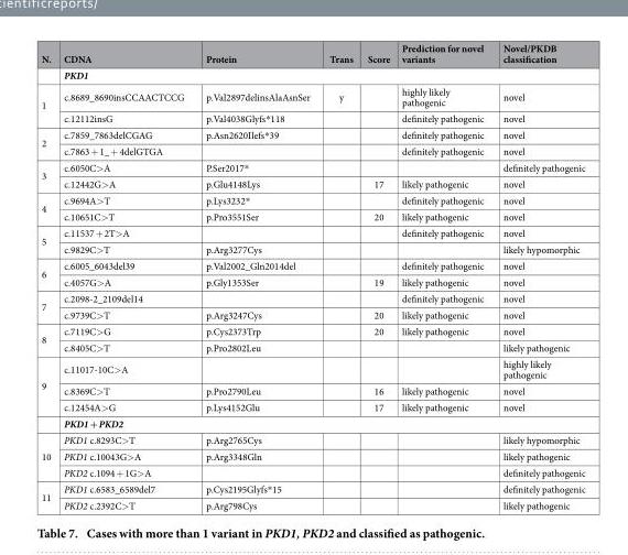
<table><thead><tr><td>N.</td><td>CDNA</td><td>Protein</td><td>Trans</td><td>Score</td><td>Prediction for novel variants</td><td>Novel/PKDB classification</td></tr></thead><tbody><tr><td></td><td colspan="6">PKD1</td></tr><tr><td rowspan="2">1</td><td>c.8689_8690insCCAACTCCG</td><td>p.Val2897delinsAlaAsnSer</td><td>y</td><td></td><td>highly likely pathogenic</td><td>novel</td></tr><tr><td>c.12112insG</td><td>p.Val4038Glyfs* 118</td><td></td><td></td><td>definitely pathogenic</td><td>novel</td></tr><tr><td rowspan="2">2</td><td>c.7859_7863delCGAG</td><td>p.Asn2620Ilefs* 39</td><td></td><td></td><td>definitely pathogenic</td><td>novel</td></tr><tr><td>c.7863 + 1_ + 4delGTGA</td><td></td><td></td><td></td><td>definitely pathogenic</td><td>novel</td></tr><tr><td rowspan="2">3</td><td>c.6050C&gt; A</td><td>P.Ser2017*</td><td></td><td></td><td></td><td>definitely pathogenic</td></tr><tr><td>c.12442G&gt; A</td><td>p.Glu4148Lys</td><td></td><td>17</td><td>likely pathogenic</td><td>novel</td></tr><tr><td rowspan="2">4</td><td>c.9694A&gt; T</td><td>p.Lys3232*</td><td></td><td></td><td>definitely pathogenic</td><td>novel</td></tr><tr><td>c.10651C&gt; T</td><td>p.Pro3551Ser</td><td></td><td>20</td><td>likely pathogenic</td><td>novel</td></tr><tr><td rowspan="2">5</td><td>c.11537 + 2T&gt; A</td><td></td><td></td><td></td><td>definitely pathogenic</td><td>novel</td></tr><tr><td>c.9829C&gt; T</td><td>p.Arg3277Cys</td><td></td><td></td><td></td><td>likely hypomorphic</td></tr><tr><td rowspan="2">6</td><td>c.6005_6043del39</td><td>p.Val2002_Gln2014del</td><td></td><td></td><td>definitely pathogenic</td><td>novel</td></tr><tr><td>c.4057G&gt; A</td><td>p.Gly1353Ser</td><td></td><td>19</td><td>likely pathogenic</td><td>novel</td></tr><tr><td rowspan="2">7</td><td>c.2098-2_2109del14</td><td></td><td></td><td></td><td>definitely pathogenic</td><td>novel</td></tr><tr><td>c.9739C&gt; T</td><td>p.Arg3247Cys</td><td></td><td>20</td><td>likely pathogenic</td><td>novel</td></tr><tr><td rowspan="2">8</td><td>c.7119C&gt; G</td><td>p.Cys2373Trp</td><td></td><td>20</td><td>likely pathogenic</td><td>novel</td></tr><tr><td>c.8405C&gt; T</td><td>p.Pro2802Leu</td><td></td><td></td><td></td><td>likely pathogenic</td></tr><tr><td rowspan="4">9</td><td>c.11017-10C&gt; A</td><td></td><td></td><td></td><td></td><td>highly likely pathogenic</td></tr><tr><td>c.8369C&gt; T</td><td>p.Pro2790Leu</td><td></td><td>16</td><td>likely pathogenic</td><td>novel</td></tr><tr><td>c.12454A&gt; G</td><td>p.Lys4152Glu</td><td></td><td>17</td><td>likely pathogenic</td><td>novel</td></tr><tr><td colspan="6">PKD1 + PKD2</td></tr><tr><td rowspan="3">10</td><td>PKD1 c.8293C&gt; T</td><td>p.Arg2765Cys</td><td></td><td></td><td></td><td>likely hypomorphic</td></tr><tr><td>PKD1 c.10043G&gt; A</td><td>p.Arg3348Gln</td><td></td><td></td><td></td><td>likely pathogenic</td></tr><tr><td>PKD2 c.1094 + 1G&gt; A</td><td></td><td></td><td></td><td></td><td>definitely pathogenic</td></tr><tr><td rowspan="2">11</td><td>PKD1 c.6583_6589del7</td><td>p.Cys2195Glyfs* 15</td><td></td><td></td><td></td><td>definitely pathogenic</td></tr><tr><td>PKD2 c.2392C&gt; T</td><td>p.Arg798Cys</td><td></td><td></td><td></td><td>likely pathogenic</td></tr></tbody></table>